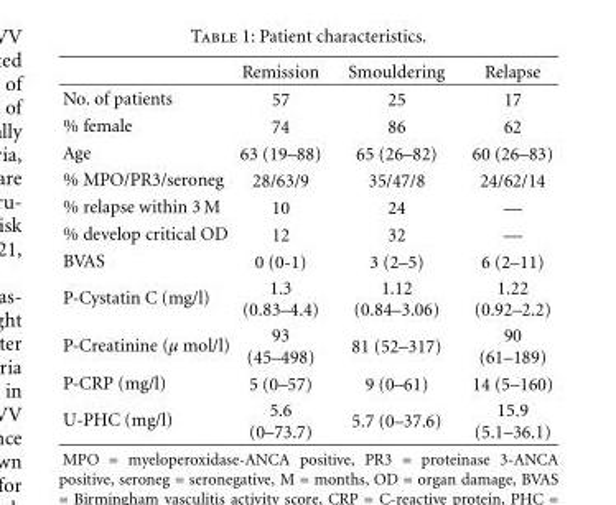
<table><thead><tr><td></td><td>Remission</td><td>Smouldering</td><td>Relapse</td></tr></thead><tbody><tr><td>No. of patients</td><td>57</td><td>25</td><td>17</td></tr><tr><td>% female</td><td>74</td><td>86</td><td>62</td></tr><tr><td>Age</td><td>63 (19–88)</td><td>65 (26–82)</td><td>60 (26–83)</td></tr><tr><td>% MPO/PR3/seroneg</td><td>28/63/9</td><td>35/47/8</td><td>24/62/14</td></tr><tr><td>% relapse within 3 M</td><td>10</td><td>24</td><td>—</td></tr><tr><td>% develop critical OD</td><td>12</td><td>32</td><td>—</td></tr><tr><td>BVAS</td><td>0 (0-1)</td><td>3 (2–5)</td><td>6 (2–11)</td></tr><tr><td>P-Cystatin C (mg/l)</td><td>1.3 (0.83–4.4)</td><td>1.12 (0.84–3.06)</td><td>1.22 (0.92–2.2)</td></tr><tr><td>P-Creatinine (μ mol/l)</td><td>93 (45–498)</td><td>81 (52–317)</td><td>90 (61–189)</td></tr><tr><td>P-CRP (mg/l)</td><td>5 (0–57)</td><td>9 (0–61)</td><td>14 (5–160)</td></tr><tr><td>U-PHC (mg/l)</td><td>5.6 (0–73.7)</td><td>5.7 (0–37.6)</td><td>15.9 (5.1–36.1)</td></tr></tbody></table>